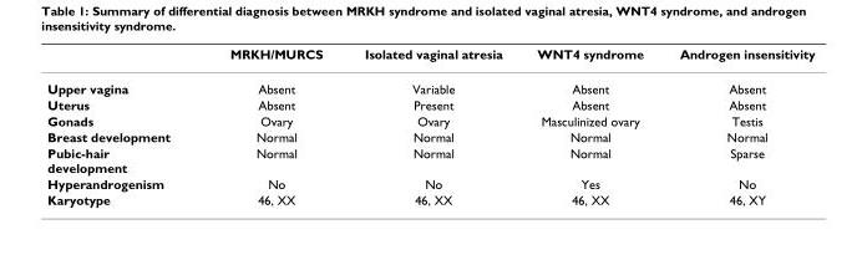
<table><thead><tr><td></td><td>MRKH/MURCS</td><td>Isolated vaginal atresia</td><td>WNT4 syndrome</td><td>Androgen insensitivity</td></tr></thead><tbody><tr><td>Upper vagina</td><td>Absent</td><td>Variable</td><td>Absent</td><td>Absent</td></tr><tr><td>Uterus</td><td>Absent</td><td>Present</td><td>Absent</td><td>Absent</td></tr><tr><td>Gonads</td><td>Ovary</td><td>Ovary</td><td>Masculinized ovary</td><td>Testis</td></tr><tr><td>Breast development</td><td>Normal</td><td>Normal</td><td>Normal</td><td>Normal</td></tr><tr><td>Pubic-hair development</td><td>Normal</td><td>Normal</td><td>Normal</td><td>Sparse</td></tr><tr><td>Hyperandrogenism</td><td>No</td><td>No</td><td>Yes</td><td>No</td></tr><tr><td>Karyotype</td><td>46, XX</td><td>46, XX</td><td>46, XX</td><td>46, XY</td></tr></tbody></table>